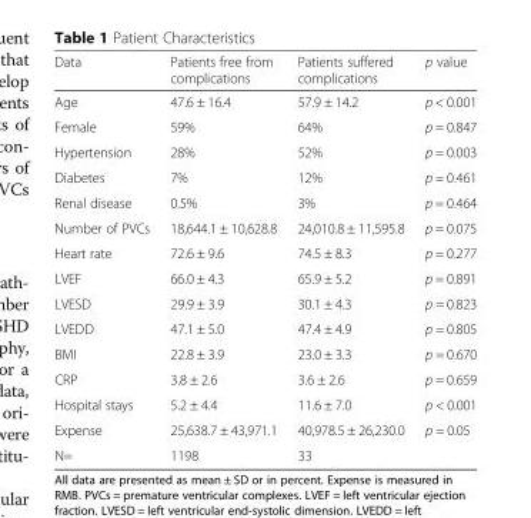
<table><thead><tr><td>Data</td><td>Patients free from complications</td><td>Patients suffered complications</td><td>p value</td></tr></thead><tbody><tr><td>Age</td><td>47.6 ± 16.4</td><td>57.9 ± 14.2</td><td>p &lt; 0.001</td></tr><tr><td>Female</td><td>59%</td><td>64%</td><td>p = 0.847</td></tr><tr><td>Hypertension</td><td>28%</td><td>52%</td><td>p = 0.003</td></tr><tr><td>Diabetes</td><td>7%</td><td>12%</td><td>p = 0.461</td></tr><tr><td>Renal disease</td><td>0.5%</td><td>3%</td><td>p = 0.464</td></tr><tr><td>Number of PVCs</td><td>18,644.1 ± 10,628.8</td><td>24,010.8 ± 11,595.8</td><td>p = 0.075</td></tr><tr><td>Heart rate</td><td>72.6 ± 9.6</td><td>74.5 ± 8.3</td><td>p = 0.277</td></tr><tr><td>LVEF</td><td>66.0 ± 4.3</td><td>65.9 ± 5.2</td><td>p = 0.891</td></tr><tr><td>LVESD</td><td>29.9 ± 3.9</td><td>30.1 ± 4.3</td><td>p = 0.823</td></tr><tr><td>LVEDD</td><td>47.1 ± 5.0</td><td>47.4 ± 4.9</td><td>p = 0.805</td></tr><tr><td>BMI</td><td>22.8 ± 3.9</td><td>23.0 ± 3.3</td><td>p = 0.670</td></tr><tr><td>CRP</td><td>3.8 ± 2.6</td><td>3.6 ± 2.6</td><td>p = 0.659</td></tr><tr><td>Hospital stays</td><td>5.2 ± 4.4</td><td>11.6 ± 7.0</td><td>p &lt; 0.001</td></tr><tr><td>Expense</td><td>25,638.7 ± 43,971.1</td><td>40,978.5 ± 26,230.0</td><td>p = 0.05</td></tr><tr><td>N=</td><td>1198</td><td>33</td><td></td></tr></tbody></table>